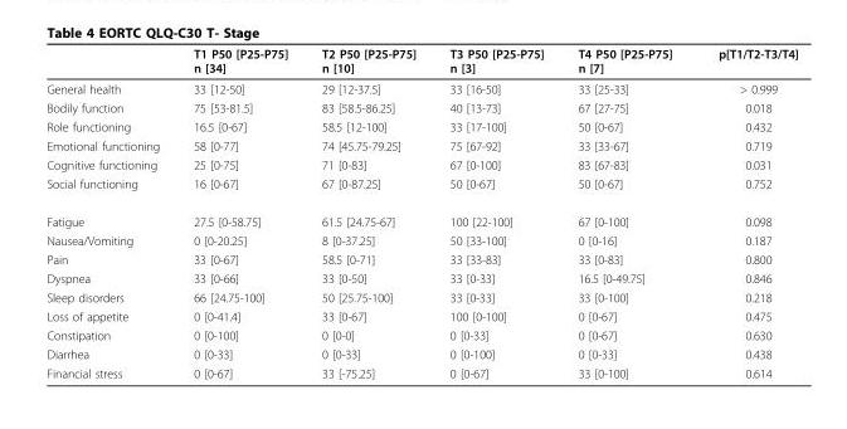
<table><thead><tr><td></td><td>T1 P50 [P25-P75] n [34]</td><td>T2 P50 [P25-P75] n [10]</td><td>T3 P50 [P25-P75] n [3]</td><td>T4 P50 [P25-P75] n [7]</td><td>p[T1/T2-T3/T4]</td></tr></thead><tbody><tr><td>General health</td><td>33 [12-50]</td><td>29 [12-37.5]</td><td>33 [16-50]</td><td>33 [25-33]</td><td>&gt; 0.999</td></tr><tr><td>Bodily function</td><td>75 [53-81.5]</td><td>83 [58.5-86.25]</td><td>40 [13-73]</td><td>67 [27-75]</td><td>0.018</td></tr><tr><td>Role functioning</td><td>16.5 [0-67]</td><td>58.5 [12-100]</td><td>33 [17-100]</td><td>50 [0-67]</td><td>0.432</td></tr><tr><td>Emotional functioning</td><td>58 [0-77]</td><td>74 [45.75-79.25]</td><td>75 [67-92]</td><td>33 [33-67]</td><td>0.719</td></tr><tr><td>Cognitive functioning</td><td>25 [0-75]</td><td>71 [0-83]</td><td>67 [0-100]</td><td>83 [67-83]</td><td>0.031</td></tr><tr><td>Social functioning</td><td>16 [0-67]</td><td>67 [0-87.25]</td><td>50 [0-67]</td><td>50 [0-67]</td><td>0.752</td></tr><tr><td>Fatigue</td><td>27.5 [0-58.75]</td><td>61.5 [24.75-67]</td><td>100 [22-100]</td><td>67 [0-100]</td><td>0.098</td></tr><tr><td>Nausea/Vomiting</td><td>0 [0-20.25]</td><td>8 [0-37.25]</td><td>50 [33-100]</td><td>0 [0-16]</td><td>0.187</td></tr><tr><td>Pain</td><td>33 [0-67]</td><td>58.5 [0-71]</td><td>33 [33-83]</td><td>33 [0-83]</td><td>0.800</td></tr><tr><td>Dyspnea</td><td>33 [0-66]</td><td>33 [0-50]</td><td>33 [0-33]</td><td>16.5 [0-49.75]</td><td>0.846</td></tr><tr><td>Sleep disorders</td><td>66 [24.75-100]</td><td>50 [25.75-100]</td><td>33 [0-33]</td><td>33 [0-100]</td><td>0.218</td></tr><tr><td>Loss of appetite</td><td>0 [0-41.4]</td><td>33 [0-67]</td><td>100 [0-100]</td><td>0 [0-67]</td><td>0.475</td></tr><tr><td>Constipation</td><td>0 [0-100]</td><td>0 [0-0]</td><td>0 [0-33]</td><td>0 [0-67]</td><td>0.630</td></tr><tr><td>Diarrhea</td><td>0 [0-33]</td><td>0 [0-33]</td><td>0 [0-100]</td><td>0 [0-33]</td><td>0.438</td></tr><tr><td>Financial stress</td><td>0 [0-67]</td><td>33 [-75.25]</td><td>0 [0-67]</td><td>33 [0-100]</td><td>0.614</td></tr></tbody></table>